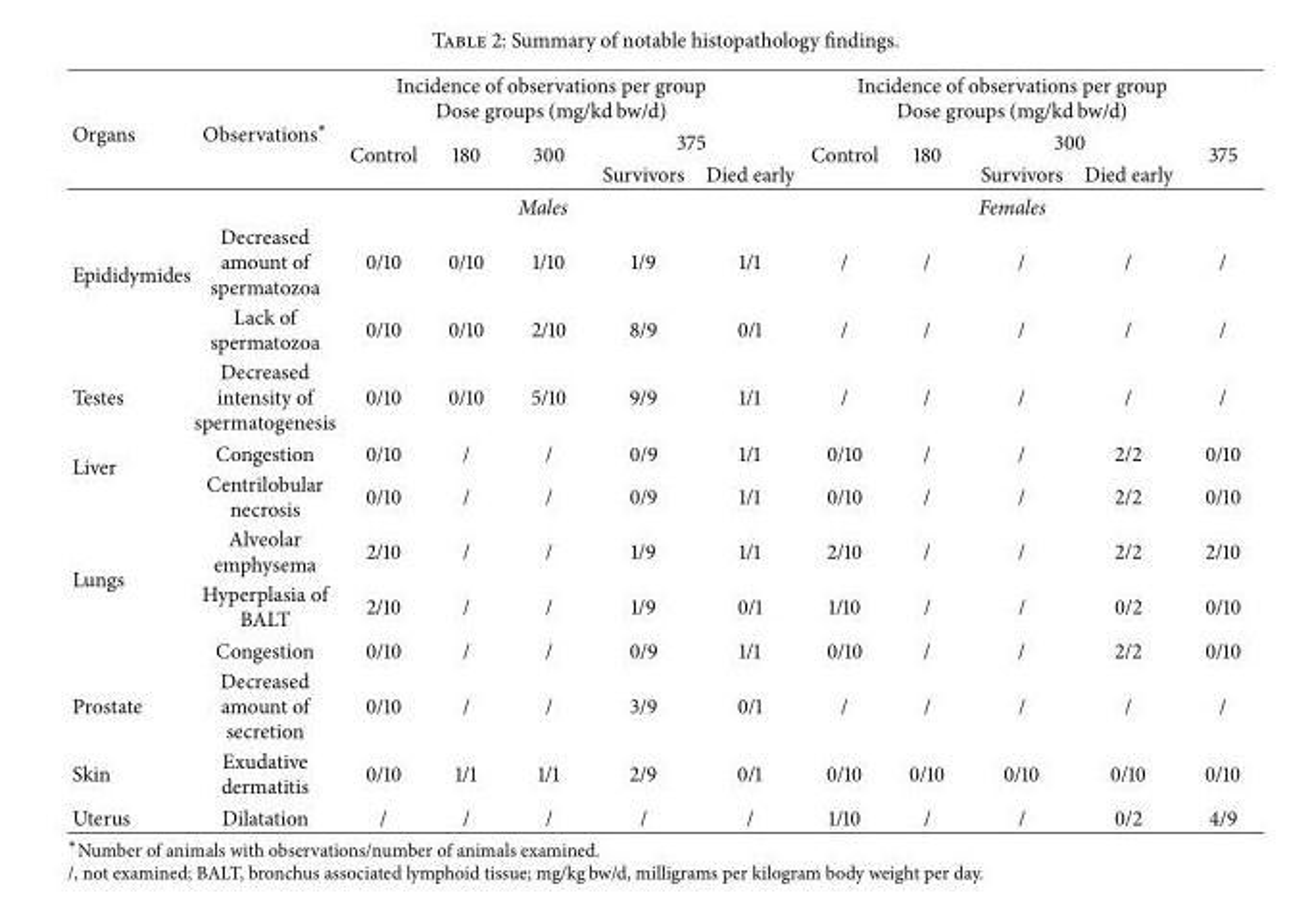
<table><thead><tr><td rowspan="3">Organs</td><td rowspan="3">Observations∗</td><td colspan="5">Incidence of observations per group Dose groups (mg/kd bw/d)</td><td colspan="5">Incidence of observations per group Dose groups (mg/kd bw/d)</td></tr><tr><td rowspan="2">Control</td><td rowspan="2">180</td><td rowspan="2">300</td><td colspan="2">375</td><td rowspan="2">Control</td><td rowspan="2">180</td><td colspan="2">300</td><td rowspan="2">375</td></tr><tr><td>Survivors</td><td>Died early</td><td>Survivors</td><td>Died early</td></tr></thead><tbody><tr><td></td><td></td><td colspan="5">Males</td><td colspan="5">Females</td></tr><tr><td rowspan="2">Epididymides</td><td>Decreased amount of spermatozoa</td><td>0/10</td><td>0/10</td><td>1/10</td><td>1/9</td><td>1/1</td><td>/</td><td>/</td><td>/</td><td>/</td><td>/</td></tr><tr><td>Lack of spermatozoa</td><td>0/10</td><td>0/10</td><td>2/10</td><td>8/9</td><td>0/1</td><td>/</td><td>/</td><td>/</td><td>/</td><td>/</td></tr><tr><td>Testes</td><td>Decreased intensity of spermatogenesis</td><td>0/10</td><td>0/10</td><td>5/10</td><td>9/9</td><td>1/1</td><td>/</td><td>/</td><td>/</td><td>/</td><td>/</td></tr><tr><td rowspan="2">Liver</td><td>Congestion</td><td>0/10</td><td>/</td><td>/</td><td>0/9</td><td>1/1</td><td>0/10</td><td>/</td><td>/</td><td>2/2</td><td>0/10</td></tr><tr><td>Centrilobular necrosis</td><td>0/10</td><td>/</td><td>/</td><td>0/9</td><td>1/1</td><td>0/10</td><td>/</td><td>/</td><td>2/2</td><td>0/10</td></tr><tr><td rowspan="3">Lungs</td><td>Alveolar emphysema</td><td>2/10</td><td>/</td><td>/</td><td>1/9</td><td>1/1</td><td>2/10</td><td>/</td><td>/</td><td>2/2</td><td>2/10</td></tr><tr><td>Hyperplasia of BALT</td><td>2/10</td><td>/</td><td>/</td><td>1/9</td><td>0/1</td><td>1/10</td><td>/</td><td>/</td><td>0/2</td><td>0/10</td></tr><tr><td>Congestion</td><td>0/10</td><td>/</td><td>/</td><td>0/9</td><td>1/1</td><td>0/10</td><td>/</td><td>/</td><td>2/2</td><td>0/10</td></tr><tr><td>Prostate</td><td>Decreased amount of secretion</td><td>0/10</td><td>/</td><td>/</td><td>3/9</td><td>0/1</td><td>/</td><td>/</td><td>/</td><td>/</td><td>/</td></tr><tr><td>Skin</td><td>Exudative dermatitis</td><td>0/10</td><td>1/1</td><td>1/1</td><td>2/9</td><td>0/1</td><td>0/10</td><td>0/10</td><td>0/10</td><td>0/10</td><td>0/10</td></tr><tr><td>Uterus</td><td>Dilatation</td><td>/</td><td>/</td><td>/</td><td>/</td><td>/</td><td>1/10</td><td>/</td><td>/</td><td>0/2</td><td>4/9</td></tr></tbody></table>